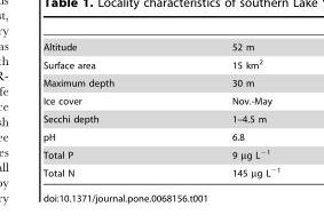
<table><tbody><tr><td>Altitude</td><td>52 m</td></tr><tr><td>Surface area</td><td>15 km<sup>2</sup></td></tr><tr><td>Maximum depth</td><td>30 m</td></tr><tr><td>Ice cover</td><td>Nov.-May</td></tr><tr><td>Secchi depth</td><td>1–4.5 m</td></tr><tr><td>pH</td><td>6.8</td></tr><tr><td>Total P</td><td>9 µg L<sup>−1</sup></td></tr><tr><td>Total N</td><td>145 µg L<sup>−1</sup></td></tr></tbody></table>